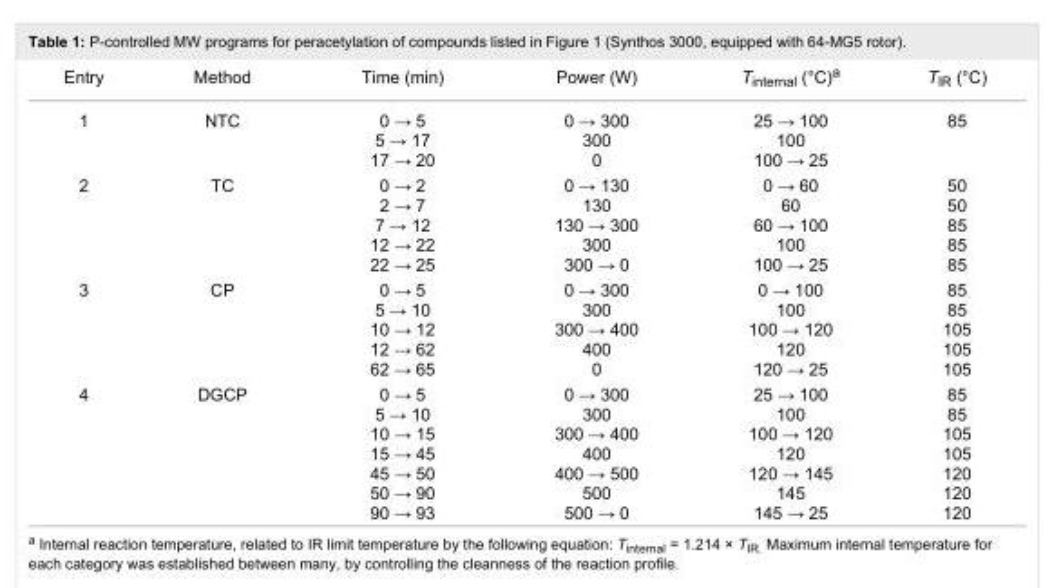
<table><tbody><tr><td>Entry</td><td>Method</td><td>Time (min)</td><td>Power (W)</td><td>T<sub>internal</sub> (°C)<sup>a</sup></td><td>T<sub>IR</sub> (°C)</td></tr><tr><td>1</td><td>NTC</td><td>0 → 5 5 → 17 17 → 20</td><td>0 → 300 300 0</td><td>25 → 100 100 100 → 25</td><td>85</td></tr><tr><td>2</td><td>TC</td><td>0 → 2 2 → 7 7 → 12 12 → 22 22 → 25</td><td>0 → 130 130 130 → 300 300 300 → 0</td><td>0 → 60 60 60 → 100 100 100 → 25</td><td>50 50 85 85 85</td></tr><tr><td>3</td><td>CP</td><td>0 → 5 5 → 10 10 → 12 12 → 62 62 → 65</td><td>0 → 300 300 300 → 400 400 0</td><td>0 → 100 100 100 → 120 120 120 → 25</td><td>85 85 105 105 105</td></tr><tr><td>4</td><td>DGCP</td><td>0 → 5 5 → 10 10 → 15 15 → 45 45 → 50 50 → 90 90 → 93</td><td>0 → 300 300 300 → 400 400 400 → 500 500 500 → 0</td><td>25 → 100 100 100 → 120 120 120 → 145 145 145 → 25</td><td>85 85 105 105 120 120 120</td></tr></tbody></table>